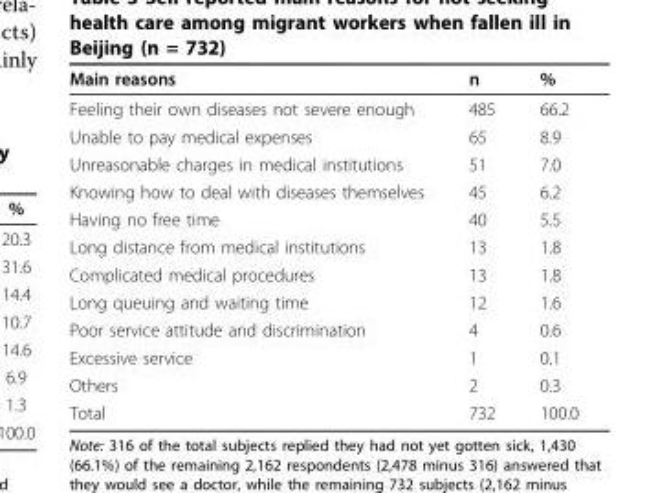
<table><thead><tr><td>Main reasons</td><td>n</td><td>%</td></tr></thead><tbody><tr><td>Feeling their own diseases not severe enough</td><td>485</td><td>66.2</td></tr><tr><td>Unable to pay medical expenses</td><td>65</td><td>8.9</td></tr><tr><td>Unreasonable charges in medical institutions</td><td>51</td><td>7.0</td></tr><tr><td>Knowing how to deal with diseases themselves</td><td>45</td><td>6.2</td></tr><tr><td>Having no free time</td><td>40</td><td>5.5</td></tr><tr><td>Long distance from medical institutions</td><td>13</td><td>1.8</td></tr><tr><td>Complicated medical procedures</td><td>13</td><td>1.8</td></tr><tr><td>Long queuing and waiting time</td><td>12</td><td>1.6</td></tr><tr><td>Poor service attitude and discrimination</td><td>4</td><td>0.6</td></tr><tr><td>Excessive service</td><td>1</td><td>0.1</td></tr><tr><td>Others</td><td>2</td><td>0.3</td></tr><tr><td>Total</td><td>732</td><td>100.0</td></tr></tbody></table>